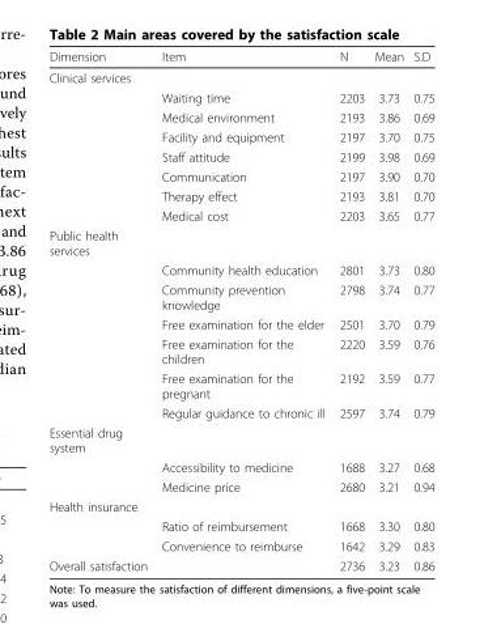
<table><thead><tr><td>Dimension</td><td>Item</td><td>N</td><td>Mean</td><td>S.D</td></tr></thead><tbody><tr><td colspan="5">Clinical services</td></tr><tr><td></td><td>Waiting time</td><td>2203</td><td>3.73</td><td>0.75</td></tr><tr><td></td><td>Medical environment</td><td>2193</td><td>3.86</td><td>0.69</td></tr><tr><td></td><td>Facility and equipment</td><td>2197</td><td>3.70</td><td>0.75</td></tr><tr><td></td><td>Staff attitude</td><td>2199</td><td>3.98</td><td>0.69</td></tr><tr><td></td><td>Communication</td><td>2197</td><td>3.90</td><td>0.70</td></tr><tr><td></td><td>Therapy effect</td><td>2193</td><td>3.81</td><td>0.70</td></tr><tr><td></td><td>Medical cost</td><td>2203</td><td>3.65</td><td>0.77</td></tr><tr><td colspan="5">Public health services</td></tr><tr><td></td><td>Community health education</td><td>2801</td><td>3.73</td><td>0.80</td></tr><tr><td></td><td>Community prevention knowledge</td><td>2798</td><td>3.74</td><td>0.77</td></tr><tr><td></td><td>Free examination for the elder</td><td>2501</td><td>3.70</td><td>0.79</td></tr><tr><td></td><td>Free examination for the children</td><td>2220</td><td>3.59</td><td>0.76</td></tr><tr><td></td><td>Free examination for the pregnant</td><td>2192</td><td>3.59</td><td>0.77</td></tr><tr><td></td><td>Regular guidance to chronic ill</td><td>2597</td><td>3.74</td><td>0.79</td></tr><tr><td colspan="5">Essential drug system</td></tr><tr><td></td><td>Accessibility to medicine</td><td>1688</td><td>3.27</td><td>0.68</td></tr><tr><td></td><td>Medicine price</td><td>2680</td><td>3.21</td><td>0.94</td></tr><tr><td colspan="5">Health insurance</td></tr><tr><td></td><td>Ratio of reimbursement</td><td>1668</td><td>3.30</td><td>0.80</td></tr><tr><td></td><td>Convenience to reimburse</td><td>1642</td><td>3.29</td><td>0.83</td></tr><tr><td>Overall satisfaction</td><td></td><td>2736</td><td>3.23</td><td>0.86</td></tr></tbody></table>